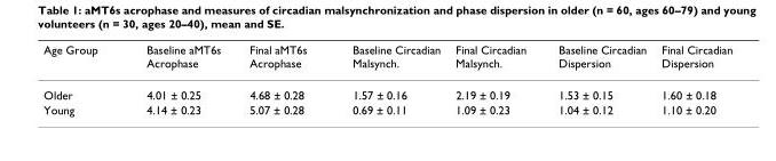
<table><thead><tr><td>Age Group</td><td>Baseline aMT6s Acrophase</td><td>Final aMT6s Acrophase</td><td>Baseline Circadian Malsynch.</td><td>Final Circadian Malsynch.</td><td>Baseline Circadian Dispersion</td><td>Final Circadian Dispersion</td></tr></thead><tbody><tr><td>Older</td><td>4.01 ± 0.25</td><td>4.68 ± 0.28</td><td>1.57 ± 0.16</td><td>2.19 ± 0.19</td><td>1.53 ± 0.15</td><td>1.60 ± 0.18</td></tr><tr><td>Young</td><td>4.14 ± 0.23</td><td>5.07 ± 0.28</td><td>0.69 ± 0.11</td><td>1.09 ± 0.23</td><td>1.04 ± 0.12</td><td>1.10 ± 0.20</td></tr></tbody></table>